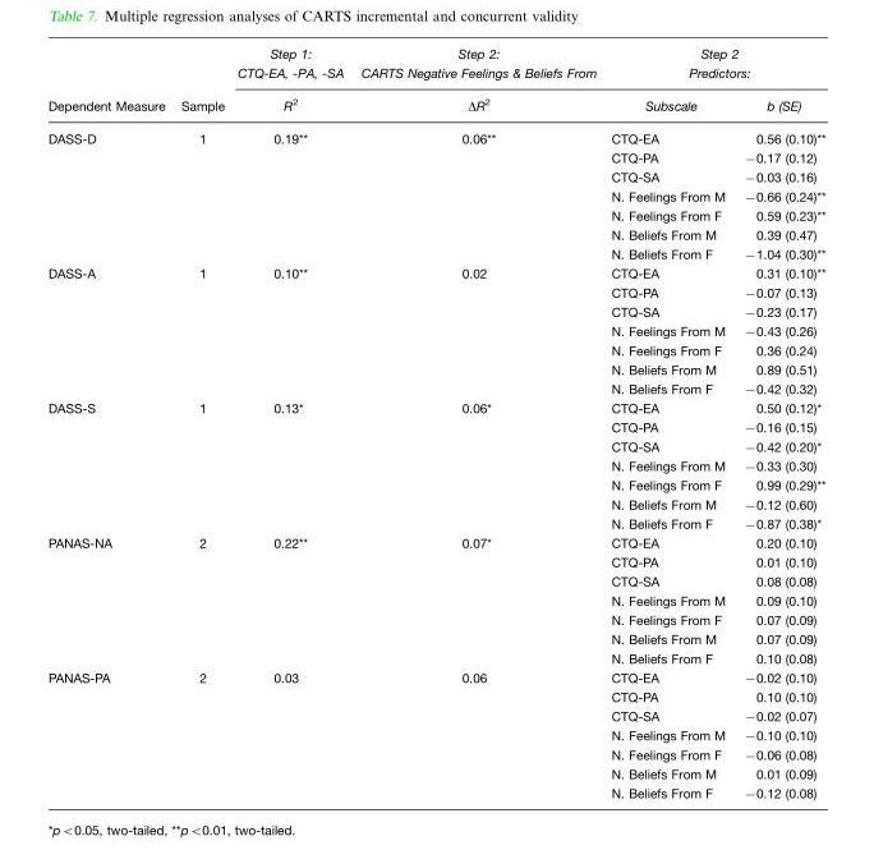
<table><thead><tr><td rowspan="2">Dependent Measure</td><td rowspan="2">Sample</td><td rowspan="2">Step 1: CTQ-EA, -PA, -SA R<sup>2</sup></td><td rowspan="2">Step 2: CARTS Negative Feelings &amp; Beliefs From ΔR<sup>2</sup></td><td colspan="2">Step 2 Predictors:</td></tr><tr><td>Subscale</td><td>b (SE)</td></tr></thead><tbody><tr><td rowspan="7">DASS-D</td><td>1</td><td>0.19**</td><td>0.06**</td><td>CTQ-EA</td><td>0.56 (0.10)**</td></tr><tr><td></td><td></td><td></td><td>CTQ-PA</td><td>−0.17 (0.12)</td></tr><tr><td></td><td></td><td></td><td>CTQ-SA</td><td>−0.03 (0.16)</td></tr><tr><td></td><td></td><td></td><td>N. Feelings From M</td><td>−0.66 (0.24)**</td></tr><tr><td></td><td></td><td></td><td>N. Feelings From F</td><td>0.59 (0.23)**</td></tr><tr><td></td><td></td><td></td><td>N. Beliefs From M</td><td>0.39 (0.47)</td></tr><tr><td></td><td></td><td></td><td>N. Beliefs From F</td><td>−1.04 (0.30)**</td></tr><tr><td rowspan="7">DASS-A</td><td>1</td><td>0.10**</td><td>0.02</td><td>CTQ-EA</td><td>0.31 (0.10)**</td></tr><tr><td></td><td></td><td></td><td>CTQ-PA</td><td>−0.07 (0.13)</td></tr><tr><td></td><td></td><td></td><td>CTQ-SA</td><td>−0.23 (0.17)</td></tr><tr><td></td><td></td><td></td><td>N. Feelings From M</td><td>−0.43 (0.26)</td></tr><tr><td></td><td></td><td></td><td>N. Feelings From F</td><td>0.36 (0.24)</td></tr><tr><td></td><td></td><td></td><td>N. Beliefs From M</td><td>0.89 (0.51)</td></tr><tr><td></td><td></td><td></td><td>N. Beliefs From F</td><td>−0.42 (0.32)</td></tr><tr><td rowspan="7">DASS-S</td><td>1</td><td>0.13*</td><td>0.06*</td><td>CTQ-EA</td><td>0.50 (0.12)*</td></tr><tr><td></td><td></td><td></td><td>CTQ-PA</td><td>−0.16 (0.15)</td></tr><tr><td></td><td></td><td></td><td>CTQ-SA</td><td>−0.42 (0.20)*</td></tr><tr><td></td><td></td><td></td><td>N. Feelings From M</td><td>−0.33 (0.30)</td></tr><tr><td></td><td></td><td></td><td>N. Feelings From F</td><td>0.99 (0.29)**</td></tr><tr><td></td><td></td><td></td><td>N. Beliefs From M</td><td>−0.12 (0.60)</td></tr><tr><td></td><td></td><td></td><td>N. Beliefs From F</td><td>−0.87 (0.38)*</td></tr><tr><td rowspan="7">PANAS-NA</td><td>2</td><td>0.22**</td><td>0.07*</td><td>CTQ-EA</td><td>0.20 (0.10)</td></tr><tr><td></td><td></td><td></td><td>CTQ-PA</td><td>0.01 (0.10)</td></tr><tr><td></td><td></td><td></td><td>CTQ-SA</td><td>0.08 (0.08)</td></tr><tr><td></td><td></td><td></td><td>N. Feelings From M</td><td>0.09 (0.10)</td></tr><tr><td></td><td></td><td></td><td>N. Feelings From F</td><td>0.07 (0.09)</td></tr><tr><td></td><td></td><td></td><td>N. Beliefs From M</td><td>0.07 (0.09)</td></tr><tr><td></td><td></td><td></td><td>N. Beliefs From F</td><td>0.10 (0.08)</td></tr><tr><td rowspan="7">PANAS-PA</td><td>2</td><td>0.03</td><td>0.06</td><td>CTQ-EA</td><td>−0.02 (0.10)</td></tr><tr><td></td><td></td><td></td><td>CTQ-PA</td><td>0.10 (0.10)</td></tr><tr><td></td><td></td><td></td><td>CTQ-SA</td><td>−0.02 (0.07)</td></tr><tr><td></td><td></td><td></td><td>N. Feelings From M</td><td>−0.10 (0.10)</td></tr><tr><td></td><td></td><td></td><td>N. Feelings From F</td><td>−0.06 (0.08)</td></tr><tr><td></td><td></td><td></td><td>N. Beliefs From M</td><td>0.01 (0.09)</td></tr><tr><td></td><td></td><td></td><td>N. Beliefs From F</td><td>−0.12 (0.08)</td></tr></tbody></table>